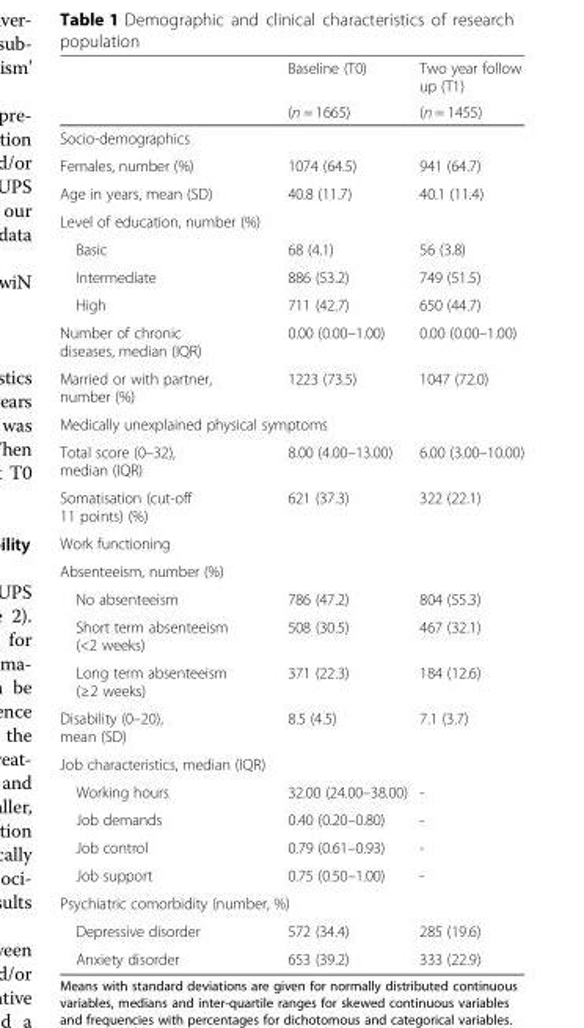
<table><thead><tr><td rowspan="2"></td><td rowspan="2">Baseline (T0) (n = 1665)</td><td rowspan="2">Two year follow up (T1) (n = 1455)</td></tr><tr></tr></thead><tbody><tr><td colspan="3">Socio-demographics</td></tr><tr><td>Females, number (%)</td><td>1074 (64.5)</td><td>941 (64.7)</td></tr><tr><td>Age in years, mean (SD)</td><td>40.8 (11.7)</td><td>40.1 (11.4)</td></tr><tr><td colspan="3">Level of education, number (%)</td></tr><tr><td>Basic</td><td>68 (4.1)</td><td>56 (3.8)</td></tr><tr><td>Intermediate</td><td>886 (53.2)</td><td>749 (51.5)</td></tr><tr><td>High</td><td>711 (42.7)</td><td>650 (44.7)</td></tr><tr><td>Number of chronic diseases, median (IQR)</td><td>0.00 (0.00–1.00)</td><td>0.00 (0.00–1.00)</td></tr><tr><td>Married or with partner, number (%)</td><td>1223 (73.5)</td><td>1047 (72.0)</td></tr><tr><td colspan="3">Medically unexplained physical symptoms</td></tr><tr><td>Total score (0–32), median (IQR)</td><td>8.00 (4.00–13.00)</td><td>6.00 (3.00–10.00)</td></tr><tr><td>Somatisation (cut-off 11 points) (%)</td><td>621 (37.3)</td><td>322 (22.1)</td></tr><tr><td colspan="3">Work functioning</td></tr><tr><td colspan="3">Absenteeism, number (%)</td></tr><tr><td>No absenteeism</td><td>786 (47.2)</td><td>804 (55.3)</td></tr><tr><td>Short term absenteeism (&lt;2 weeks)</td><td>508 (30.5)</td><td>467 (32.1)</td></tr><tr><td>Long term absenteeism (≥2 weeks)</td><td>371 (22.3)</td><td>184 (12.6)</td></tr><tr><td>Disability (0–20), mean (SD)</td><td>8.5 (4.5)</td><td>7.1 (3.7)</td></tr><tr><td colspan="3">Job characteristics, median (IQR)</td></tr><tr><td>Working hours</td><td>32.00 (24.00–38.00)</td><td>-</td></tr><tr><td>Job demands</td><td>0.40 (0.20–0.80)</td><td>-</td></tr><tr><td>Job control</td><td>0.79 (0.61–0.93)</td><td>-</td></tr><tr><td>Job support</td><td>0.75 (0.50–1.00)</td><td>-</td></tr><tr><td colspan="3">Psychiatric comorbidity (number, %)</td></tr><tr><td>Depressive disorder</td><td>572 (34.4)</td><td>285 (19.6)</td></tr><tr><td>Anxiety disorder</td><td>653 (39.2)</td><td>333 (22.9)</td></tr></tbody></table>